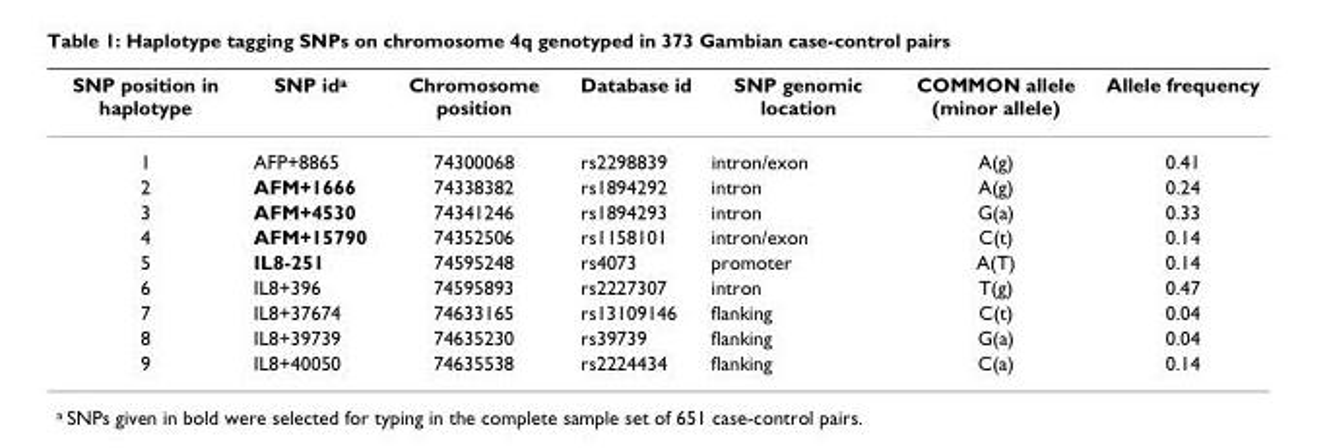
<table><thead><tr><td>SNP position in haplotype</td><td>SNP id<sup>a</sup></td><td>Chromosome position</td><td>Database id</td><td>SNP genomic location</td><td>COMMON allele (minor allele)</td><td>Allele frequency</td></tr></thead><tbody><tr><td>1</td><td>AFP+8865</td><td>74300068</td><td>rs2298839</td><td>intron/exon</td><td>A(g)</td><td>0.41</td></tr><tr><td>2</td><td>AFM+1666</td><td>74338382</td><td>rs1894292</td><td>intron</td><td>A(g)</td><td>0.24</td></tr><tr><td>3</td><td>AFM+4530</td><td>74341246</td><td>rs1894293</td><td>intron</td><td>G(a)</td><td>0.33</td></tr><tr><td>4</td><td>AFM+15790</td><td>74352506</td><td>rs1158101</td><td>intron/exon</td><td>C(t)</td><td>0.14</td></tr><tr><td>5</td><td>IL8-251</td><td>74595248</td><td>rs4073</td><td>promoter</td><td>A(T)</td><td>0.14</td></tr><tr><td>6</td><td>IL8+396</td><td>74595893</td><td>rs2227307</td><td>intron</td><td>T(g)</td><td>0.47</td></tr><tr><td>7</td><td>IL8+37674</td><td>74633165</td><td>rs13109146</td><td>flanking</td><td>C(t)</td><td>0.04</td></tr><tr><td>8</td><td>IL8+39739</td><td>74635230</td><td>rs39739</td><td>flanking</td><td>G(a)</td><td>0.04</td></tr><tr><td>9</td><td>IL8+40050</td><td>74635538</td><td>rs2224434</td><td>flanking</td><td>C(a)</td><td>0.14</td></tr></tbody></table>